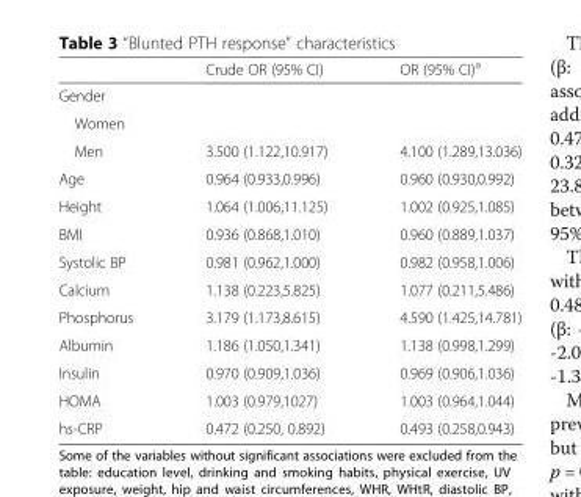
<table><thead><tr><td></td><td>Crude OR (95% CI)</td><td>OR (95% CI)<sup>a</sup></td></tr></thead><tbody><tr><td colspan="3">Gender</td></tr><tr><td colspan="3">Women</td></tr><tr><td>Men</td><td>3.500 (1.122,10.917)</td><td>4.100 (1.289,13.036)</td></tr><tr><td>Age</td><td>0.964 (0.933,0.996)</td><td>0.960 (0.930,0.992)</td></tr><tr><td>Height</td><td>1.064 (1.006,11.125)</td><td>1.002 (0.925,1.085)</td></tr><tr><td>BMI</td><td>0.936 (0.868,1.010)</td><td>0.960 (0.889,1.037)</td></tr><tr><td>Systolic BP</td><td>0.981 (0.962,1.000)</td><td>0.982 (0.958,1.006)</td></tr><tr><td>Calcium</td><td>1.138 (0.223,5.825)</td><td>1.077 (0.211,5.486)</td></tr><tr><td>Phosphorus</td><td>3.179 (1.173,8.615)</td><td>4.590 (1.425,14.781)</td></tr><tr><td>Albumin</td><td>1.186 (1.050,1.341)</td><td>1.138 (0.998,1.299)</td></tr><tr><td>Insulin</td><td>0.970 (0.909,1.036)</td><td>0.969 (0.906,1.036)</td></tr><tr><td>HOMA</td><td>1.003 (0.979,1027)</td><td>1.003 (0.964,1.044)</td></tr><tr><td>hs-CRP</td><td>0.472 (0.250, 0.892)</td><td>0.493 (0.258,0.943)</td></tr></tbody></table>